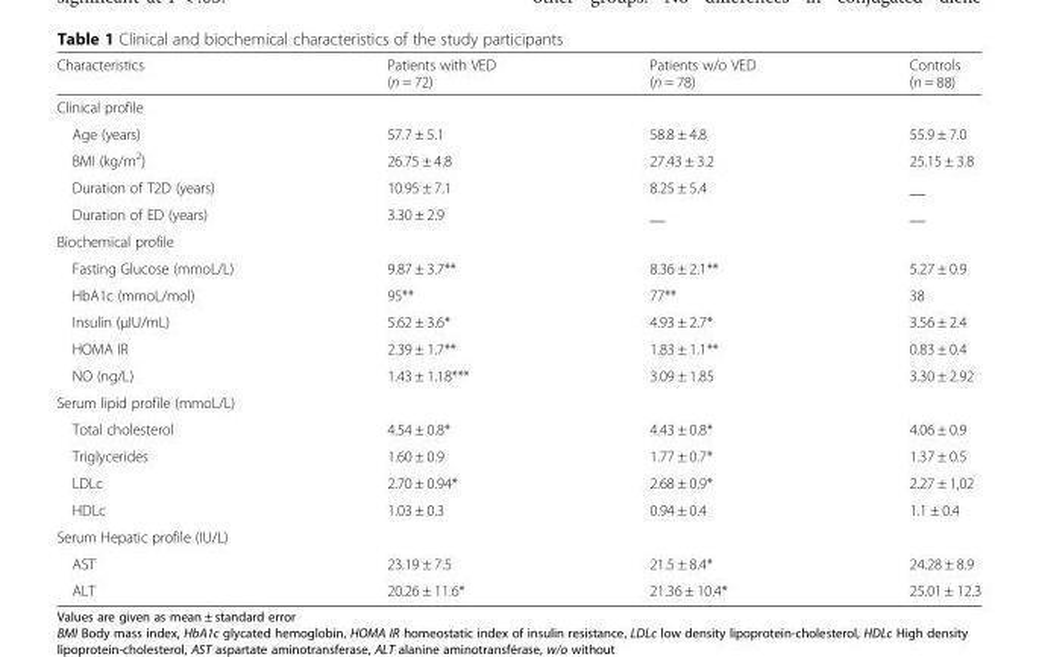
<table><thead><tr><td>Characteristics</td><td>Patients with VED (n = 72)</td><td>Patients w/o VED (n = 78)</td><td>Controls (n = 88)</td></tr></thead><tbody><tr><td colspan="4">Clinical profile</td></tr><tr><td>Age (years)</td><td>57.7 ± 5.1</td><td>58.8 ± 4.8</td><td>55.9 ± 7.0</td></tr><tr><td>BMI (kg/m<sup>2</sup>)</td><td>26.75 ± 4.8</td><td>27.43 ± 3.2</td><td>25.15 ± 3.8</td></tr><tr><td>Duration of T2D (years)</td><td>10.95 ± 7.1</td><td>8.25 ± 5.4</td><td>__</td></tr><tr><td>Duration of ED (years)</td><td>3.30 ± 2.9</td><td>__</td><td>__</td></tr><tr><td colspan="4">Biochemical profile</td></tr><tr><td>Fasting Glucose (mmoL/L)</td><td>9.87 ± 3.7**</td><td>8.36 ± 2.1**</td><td>5.27 ± 0.9</td></tr><tr><td>HbA1c (mmoL/mol)</td><td>95**</td><td>77**</td><td>38</td></tr><tr><td>Insulin (μIU/mL)</td><td>5.62 ± 3.6*</td><td>4.93 ± 2.7*</td><td>3.56 ± 2.4</td></tr><tr><td>HOMA IR</td><td>2.39 ± 1.7**</td><td>1.83 ± 1.1**</td><td>0.83 ± 0.4</td></tr><tr><td>NO (ng/L)</td><td>1.43 ± 1.18***</td><td>3.09 ± 1.85</td><td>3.30 ± 2.92</td></tr><tr><td colspan="4">Serum lipid profile (mmoL/L)</td></tr><tr><td>Total cholesterol</td><td>4.54 ± 0.8*</td><td>4.43 ± 0.8*</td><td>4.06 ± 0.9</td></tr><tr><td>Triglycerides</td><td>1.60 ± 0.9</td><td>1.77 ± 0.7*</td><td>1.37 ± 0.5</td></tr><tr><td>LDLc</td><td>2.70 ± 0.94*</td><td>2.68 ± 0.9*</td><td>2.27 ± 1,02</td></tr><tr><td>HDLc</td><td>1.03 ± 0.3</td><td>0.94 ± 0.4</td><td>1.1 ± 0.4</td></tr><tr><td colspan="4">Serum Hepatic profile (IU/L)</td></tr><tr><td>AST</td><td>23.19 ± 7.5</td><td>21.5 ± 8.4*</td><td>24.28 ± 8.9</td></tr><tr><td>ALT</td><td>20.26 ± 11.6*</td><td>21.36 ± 10.4*</td><td>25.01 ± 12.3</td></tr></tbody></table>